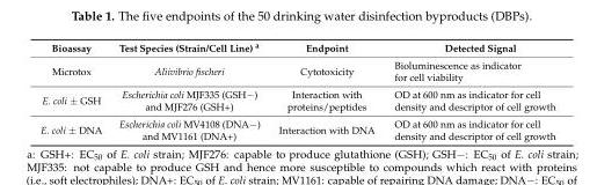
<table><thead><tr><td>Bioassay</td><td>Test Species (Strain/Cell Line) <sup>a</sup></td><td>Endpoint</td><td>Detected Signal</td></tr></thead><tbody><tr><td>Microtox</td><td>Aliivibrio fischeri</td><td>Cytotoxicity</td><td>Bioluminescence as indicator for cell viability</td></tr><tr><td>E. coli ± GSH</td><td>Escherichia coli MJF335 (GSH−) and MJF276 (GSH+)</td><td>Interaction with proteins/peptides</td><td>OD at 600 nm as indicator for cell density and descriptor of cell growth</td></tr><tr><td>E. coli ± DNA</td><td>Escherichia coli MV4108 (DNA−) and MV1161 (DNA+)</td><td>Interaction with DNA</td><td>OD at 600 nm as indicator for cell density and descriptor of cell growth</td></tr></tbody></table>